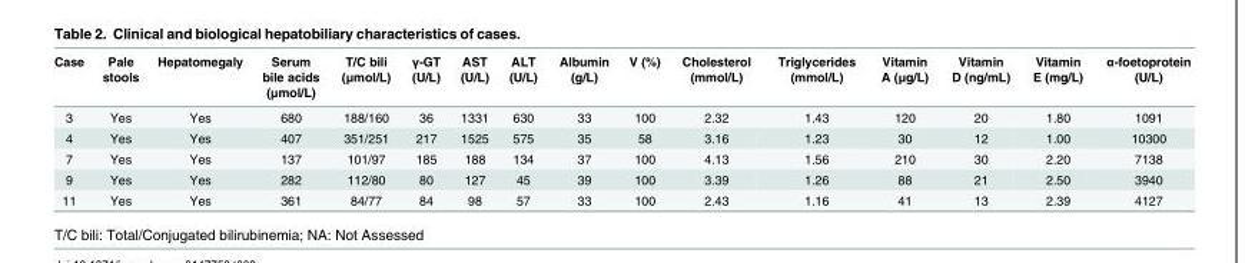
<table><thead><tr><td>Case</td><td>Pale stools</td><td>Hepatomegaly</td><td>Serum bile acids (μmol/L)</td><td>T/C bili (μmol/L)</td><td>γ-GT (U/L)</td><td>AST (U/L)</td><td>ALT (U/L)</td><td>Albumin (g/L)</td><td>V (%)</td><td>Cholesterol (mmol/L)</td><td>Triglycerides (mmol/L)</td><td>Vitamin A (μg/L)</td><td>Vitamin D (ng/mL)</td><td>Vitamin E (mg/L)</td><td>α-foetoprotein (U/L)</td></tr></thead><tbody><tr><td>3</td><td>Yes</td><td>Yes</td><td>680</td><td>188/160</td><td>36</td><td>1331</td><td>630</td><td>33</td><td>100</td><td>2.32</td><td>1.43</td><td>120</td><td>20</td><td>1.80</td><td>1091</td></tr><tr><td>4</td><td>Yes</td><td>Yes</td><td>407</td><td>351/251</td><td>217</td><td>1525</td><td>575</td><td>35</td><td>58</td><td>3.16</td><td>1.23</td><td>30</td><td>12</td><td>1.00</td><td>10300</td></tr><tr><td>7</td><td>Yes</td><td>Yes</td><td>137</td><td>101/97</td><td>185</td><td>188</td><td>134</td><td>37</td><td>100</td><td>4.13</td><td>1.56</td><td>210</td><td>30</td><td>2.20</td><td>7138</td></tr><tr><td>9</td><td>Yes</td><td>Yes</td><td>282</td><td>112/80</td><td>80</td><td>127</td><td>45</td><td>39</td><td>100</td><td>3.39</td><td>1.26</td><td>88</td><td>21</td><td>2.50</td><td>3940</td></tr><tr><td>11</td><td>Yes</td><td>Yes</td><td>361</td><td>84/77</td><td>84</td><td>98</td><td>57</td><td>33</td><td>100</td><td>2.43</td><td>1.16</td><td>41</td><td>13</td><td>2.39</td><td>4127</td></tr></tbody></table>